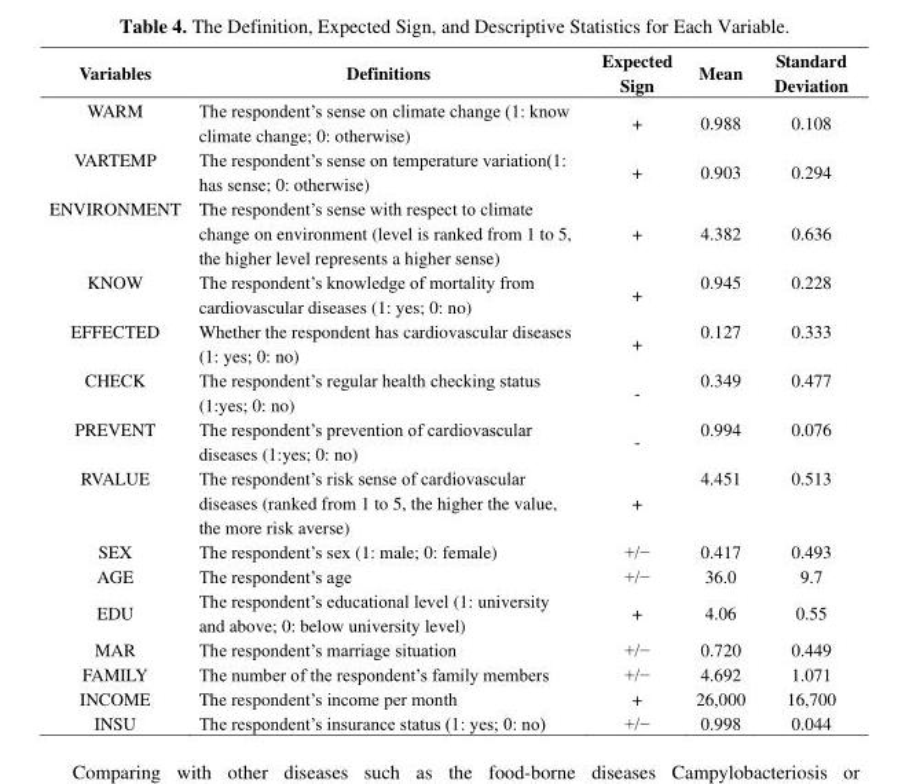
<table><thead><tr><td>Variables</td><td>Definitions</td><td>Expected Sign</td><td>Mean</td><td>Standard Deviation</td></tr></thead><tbody><tr><td>WARM</td><td>The respondent’s sense on climate change (1: know climate change; 0: otherwise)</td><td>+</td><td>0.988</td><td>0.108</td></tr><tr><td>VARTEMP</td><td>The respondent’s sense on temperature variation(1: has sense; 0: otherwise)</td><td>+</td><td>0.903</td><td>0.294</td></tr><tr><td>ENVIRONMENT</td><td>The respondent’s sense with respect to climate change on environment (level is ranked from 1 to 5, the higher level represents a higher sense)</td><td>+</td><td>4.382</td><td>0.636</td></tr><tr><td>KNOW</td><td>The respondent’s knowledge of mortality from cardiovascular diseases (1: yes; 0: no)</td><td>+</td><td>0.945</td><td>0.228</td></tr><tr><td>EFFECTED</td><td>Whether the respondent has cardiovascular diseases (1: yes; 0: no)</td><td>+</td><td>0.127</td><td>0.333</td></tr><tr><td>CHECK</td><td>The respondent’s regular health checking status (1:yes; 0: no)</td><td>-</td><td>0.349</td><td>0.477</td></tr><tr><td>PREVENT</td><td>The respondent’s prevention of cardiovascular diseases (1:yes; 0: no)</td><td>-</td><td>0.994</td><td>0.076</td></tr><tr><td>RVALUE</td><td>The respondent’s risk sense of cardiovascular diseases (ranked from 1 to 5, the higher the value, the more risk averse)</td><td>+</td><td>4.451</td><td>0.513</td></tr><tr><td>SEX</td><td>The respondent’s sex (1: male; 0: female)</td><td>+/−</td><td>0.417</td><td>0.493</td></tr><tr><td>AGE</td><td>The respondent’s age</td><td>+/−</td><td>36.0</td><td>9.7</td></tr><tr><td>EDU</td><td>The respondent’s educational level (1: university and above; 0: below university level)</td><td>+</td><td>4.06</td><td>0.55</td></tr><tr><td>MAR</td><td>The respondent’s marriage situation</td><td>+/−</td><td>0.720</td><td>0.449</td></tr><tr><td>FAMILY</td><td>The number of the respondent’s family members</td><td>+/−</td><td>4.692</td><td>1.071</td></tr><tr><td>INCOME</td><td>The respondent’s income per month</td><td>+</td><td>26,000</td><td>16,700</td></tr><tr><td>INSU</td><td>The respondent’s insurance status (1: yes; 0: no)</td><td>+/−</td><td>0.998</td><td>0.044</td></tr></tbody></table>